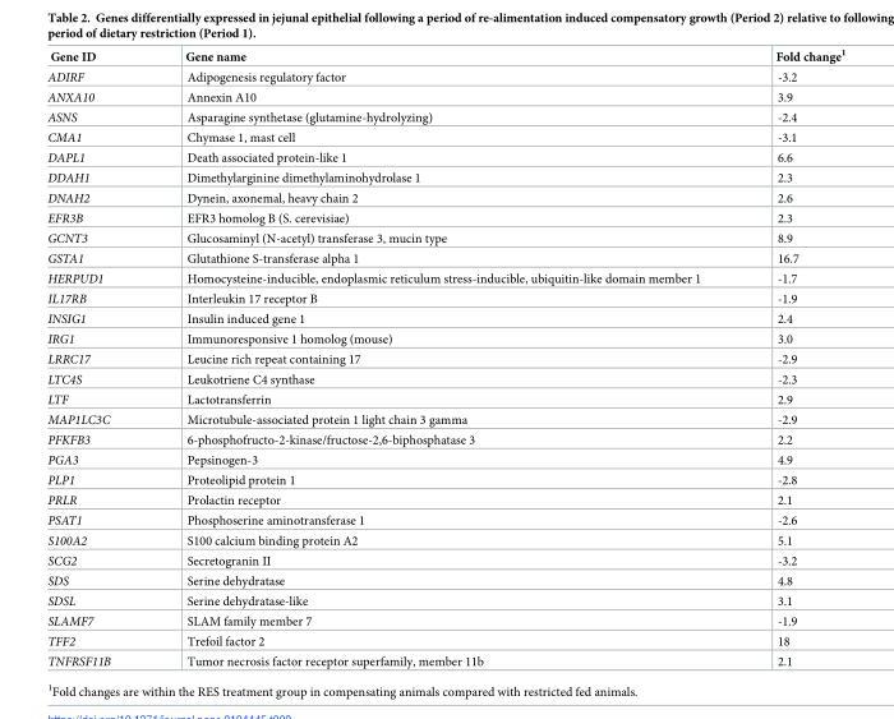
<table><thead><tr><td>Gene ID</td><td>Gene name</td><td>Fold change<sup>1</sup></td></tr></thead><tbody><tr><td>ADIRF</td><td>Adipogenesis regulatory factor</td><td>-3.2</td></tr><tr><td>ANXA10</td><td>Annexin A10</td><td>3.9</td></tr><tr><td>ASNS</td><td>Asparagine synthetase (glutamine-hydrolyzing)</td><td>-2.4</td></tr><tr><td>CMA1</td><td>Chymase 1, mast cell</td><td>-3.1</td></tr><tr><td>DAPL1</td><td>Death associated protein-like 1</td><td>6.6</td></tr><tr><td>DDAH1</td><td>Dimethylarginine dimethylaminohydrolase 1</td><td>2.3</td></tr><tr><td>DNAH2</td><td>Dynein, axonemal, heavy chain 2</td><td>2.6</td></tr><tr><td>EFR3B</td><td>EFR3 homolog B (S. cerevisiae)</td><td>2.3</td></tr><tr><td>GCNT3</td><td>Glucosaminyl (N-acetyl) transferase 3, mucin type</td><td>8.9</td></tr><tr><td>GSTA1</td><td>Glutathione S-transferase alpha 1</td><td>16.7</td></tr><tr><td>HERPUD1</td><td>Homocysteine-inducible, endoplasmic reticulum stress-inducible, ubiquitin-like domain member 1</td><td>-1.7</td></tr><tr><td>IL17RB</td><td>Interleukin 17 receptor B</td><td>-1.9</td></tr><tr><td>INSIG1</td><td>Insulin induced gene 1</td><td>2.4</td></tr><tr><td>IRG1</td><td>Immunoresponsive 1 homolog (mouse)</td><td>3.0</td></tr><tr><td>LRRC17</td><td>Leucine rich repeat containing 17</td><td>-2.9</td></tr><tr><td>LTC4S</td><td>Leukotriene C4 synthase</td><td>-2.3</td></tr><tr><td>LTF</td><td>Lactotransferrin</td><td>2.9</td></tr><tr><td>MAP1LC3C</td><td>Microtubule-associated protein 1 light chain 3 gamma</td><td>-2.9</td></tr><tr><td>PFKFB3</td><td>6-phosphofructo-2-kinase/fructose-2,6-biphosphatase 3</td><td>2.2</td></tr><tr><td>PGA3</td><td>Pepsinogen-3</td><td>4.9</td></tr><tr><td>PLP1</td><td>Proteolipid protein 1</td><td>-2.8</td></tr><tr><td>PRLR</td><td>Prolactin receptor</td><td>2.1</td></tr><tr><td>PSAT1</td><td>Phosphoserine aminotransferase 1</td><td>-2.6</td></tr><tr><td>S100A2</td><td>S100 calcium binding protein A2</td><td>5.1</td></tr><tr><td>SCG2</td><td>Secretogranin II</td><td>-3.2</td></tr><tr><td>SDS</td><td>Serine dehydratase</td><td>4.8</td></tr><tr><td>SDSL</td><td>Serine dehydratase-like</td><td>3.1</td></tr><tr><td>SLAMF7</td><td>SLAM family member 7</td><td>-1.9</td></tr><tr><td>TFF2</td><td>Trefoil factor 2</td><td>18</td></tr><tr><td>TNFRSF11B</td><td>Tumor necrosis factor receptor superfamily, member 11b</td><td>2.1</td></tr></tbody></table>